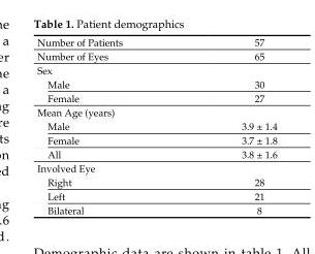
<table><tbody><tr><td>Number of Patients</td><td>57</td></tr><tr><td>Number of Eyes</td><td>65</td></tr><tr><td colspan="2">Sex</td></tr><tr><td>Male</td><td>30</td></tr><tr><td>Female</td><td>27</td></tr><tr><td colspan="2">Mean Age (years)</td></tr><tr><td>Male</td><td>3.9 ± 1.4</td></tr><tr><td>Female</td><td>3.7 ± 1.8</td></tr><tr><td>All</td><td>3.8 ± 1.6</td></tr><tr><td colspan="2">Involved Eye</td></tr><tr><td>Right</td><td>28</td></tr><tr><td>Left</td><td>21</td></tr><tr><td>Bilateral</td><td>8</td></tr></tbody></table>